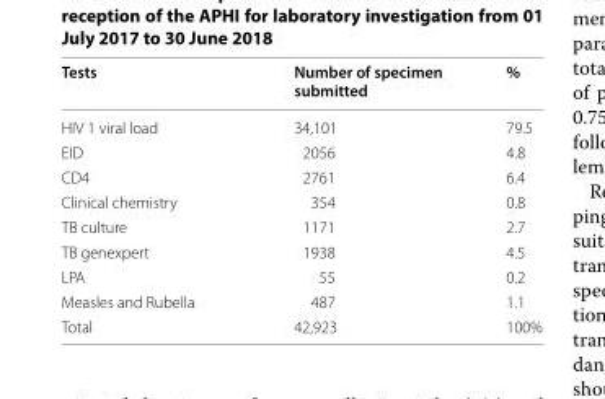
<table><thead><tr><td>Tests</td><td>Number of specimen submitted</td><td>%</td></tr></thead><tbody><tr><td>HIV 1 viral load</td><td>34,101</td><td>79.5</td></tr><tr><td>EID</td><td>2056</td><td>4.8</td></tr><tr><td>CD4</td><td>2761</td><td>6.4</td></tr><tr><td>Clinical chemistry</td><td>354</td><td>0.8</td></tr><tr><td>TB culture</td><td>1171</td><td>2.7</td></tr><tr><td>TB genexpert</td><td>1938</td><td>4.5</td></tr><tr><td>LPA</td><td>55</td><td>0.2</td></tr><tr><td>Measles and Rubella</td><td>487</td><td>1.1</td></tr><tr><td>Total</td><td>42,923</td><td>100%</td></tr></tbody></table>